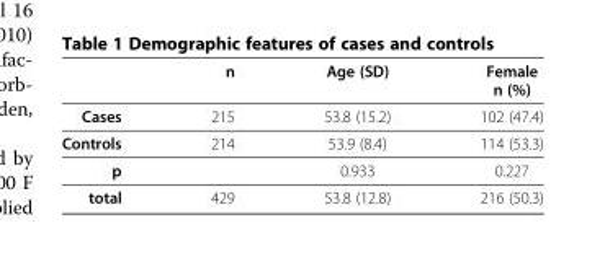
<table><thead><tr><td></td><td>n</td><td>Age (SD)</td><td>Female n (%)</td></tr></thead><tbody><tr><td>Cases</td><td>215</td><td>53.8 (15.2)</td><td>102 (47.4)</td></tr><tr><td>Controls</td><td>214</td><td>53.9 (8.4)</td><td>114 (53.3)</td></tr><tr><td>p</td><td></td><td>0.933</td><td>0.227</td></tr><tr><td>total</td><td>429</td><td>53.8 (12.8)</td><td>216 (50.3)</td></tr></tbody></table>